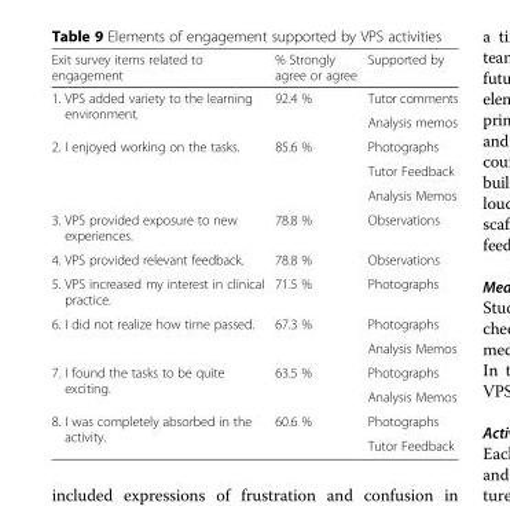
<table><thead><tr><td>Exit survey items related to engagement</td><td>% Strongly agree or agree</td><td>Supported by</td></tr></thead><tbody><tr><td rowspan="2">1. VPS added variety to the learning environment.</td><td rowspan="2">92.4 %</td><td>Tutor comments</td></tr><tr><td>Analysis memos</td></tr><tr><td rowspan="3">2. I enjoyed working on the tasks.</td><td rowspan="3">85.6 %</td><td>Photographs</td></tr><tr><td>Tutor Feedback</td></tr><tr><td>Analysis Memos</td></tr><tr><td>3. VPS provided exposure to new experiences.</td><td>78.8 %</td><td>Observations</td></tr><tr><td>4. VPS provided relevant feedback.</td><td>78.8 %</td><td>Observations</td></tr><tr><td>5. VPS increased my interest in clinical practice.</td><td>71.5 %</td><td>Photographs</td></tr><tr><td rowspan="2">6. I did not realize how time passed.</td><td rowspan="2">67.3 %</td><td>Photographs</td></tr><tr><td>Analysis Memos</td></tr><tr><td rowspan="2">7. I found the tasks to be quite exciting.</td><td rowspan="2">63.5 %</td><td>Photographs</td></tr><tr><td>Analysis Memos</td></tr><tr><td rowspan="2">8. I was completely absorbed in the activity.</td><td rowspan="2">60.6 %</td><td>Photographs</td></tr><tr><td>Tutor Feedback</td></tr></tbody></table>